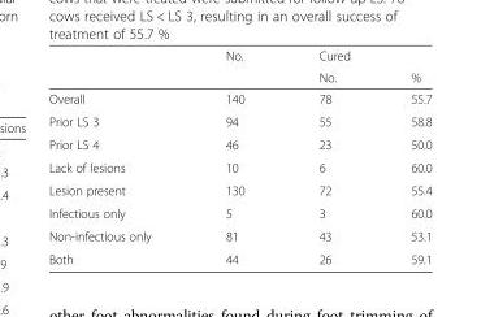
<table><thead><tr><td rowspan="2"></td><td rowspan="2">No.</td><td colspan="2">Cured</td></tr><tr><td>No.</td><td>%</td></tr></thead><tbody><tr><td>Overall</td><td>140</td><td>78</td><td>55.7</td></tr><tr><td>Prior LS 3</td><td>94</td><td>55</td><td>58.8</td></tr><tr><td>Prior LS 4</td><td>46</td><td>23</td><td>50.0</td></tr><tr><td>Lack of lesions</td><td>10</td><td>6</td><td>60.0</td></tr><tr><td>Lesion present</td><td>130</td><td>72</td><td>55.4</td></tr><tr><td>Infectious only</td><td>5</td><td>3</td><td>60.0</td></tr><tr><td>Non-infectious only</td><td>81</td><td>43</td><td>53.1</td></tr><tr><td>Both</td><td>44</td><td>26</td><td>59.1</td></tr></tbody></table>